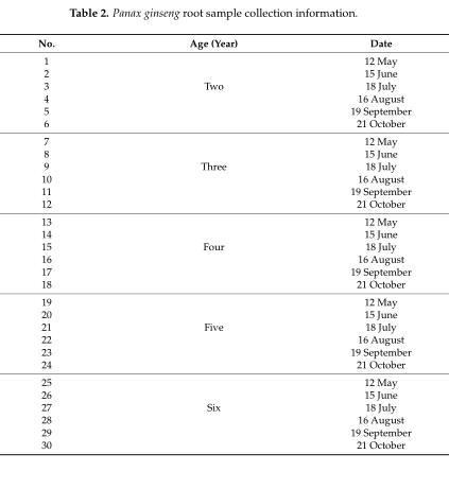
<table><thead><tr><td>No.</td><td>Age (Year)</td><td>Date</td></tr></thead><tbody><tr><td>1</td><td></td><td>12 May</td></tr><tr><td>2</td><td></td><td>15 June</td></tr><tr><td>3</td><td>Two</td><td>18 July</td></tr><tr><td>4</td><td></td><td>16 August</td></tr><tr><td>5</td><td></td><td>19 September</td></tr><tr><td>6</td><td></td><td>21 October</td></tr><tr><td>7</td><td></td><td>12 May</td></tr><tr><td>8</td><td></td><td>15 June</td></tr><tr><td>9</td><td>Three</td><td>18 July</td></tr><tr><td>10</td><td></td><td>16 August</td></tr><tr><td>11</td><td></td><td>19 September</td></tr><tr><td>12</td><td></td><td>21 October</td></tr><tr><td>13</td><td></td><td>12 May</td></tr><tr><td>14</td><td></td><td>15 June</td></tr><tr><td>15</td><td>Four</td><td>18 July</td></tr><tr><td>16</td><td></td><td>16 August</td></tr><tr><td>17</td><td></td><td>19 September</td></tr><tr><td>18</td><td></td><td>21 October</td></tr><tr><td>19</td><td></td><td>12 May</td></tr><tr><td>20</td><td></td><td>15 June</td></tr><tr><td>21</td><td>Five</td><td>18 July</td></tr><tr><td>22</td><td></td><td>16 August</td></tr><tr><td>23</td><td></td><td>19 September</td></tr><tr><td>24</td><td></td><td>21 October</td></tr><tr><td>25</td><td></td><td>12 May</td></tr><tr><td>26</td><td></td><td>15 June</td></tr><tr><td>27</td><td>Six</td><td>18 July</td></tr><tr><td>28</td><td></td><td>16 August</td></tr><tr><td>29</td><td></td><td>19 September</td></tr><tr><td>30</td><td></td><td>21 October</td></tr></tbody></table>